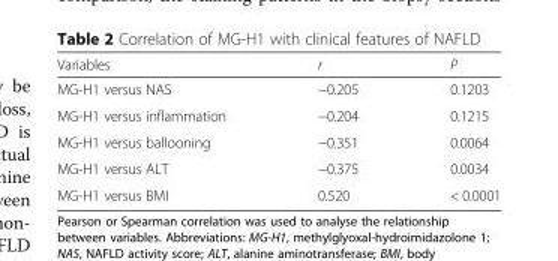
<table><thead><tr><td>Variables</td><td>r</td><td>P</td></tr></thead><tbody><tr><td>MG-H1 versus NAS</td><td>−0.205</td><td>0.1203</td></tr><tr><td>MG-H1 versus inflammation</td><td>−0.204</td><td>0.1215</td></tr><tr><td>MG-H1 versus ballooning</td><td>−0.351</td><td>0.0064</td></tr><tr><td>MG-H1 versus ALT</td><td>−0.375</td><td>0.0034</td></tr><tr><td>MG-H1 versus BMI</td><td>0.520</td><td>&lt; 0.0001</td></tr></tbody></table>